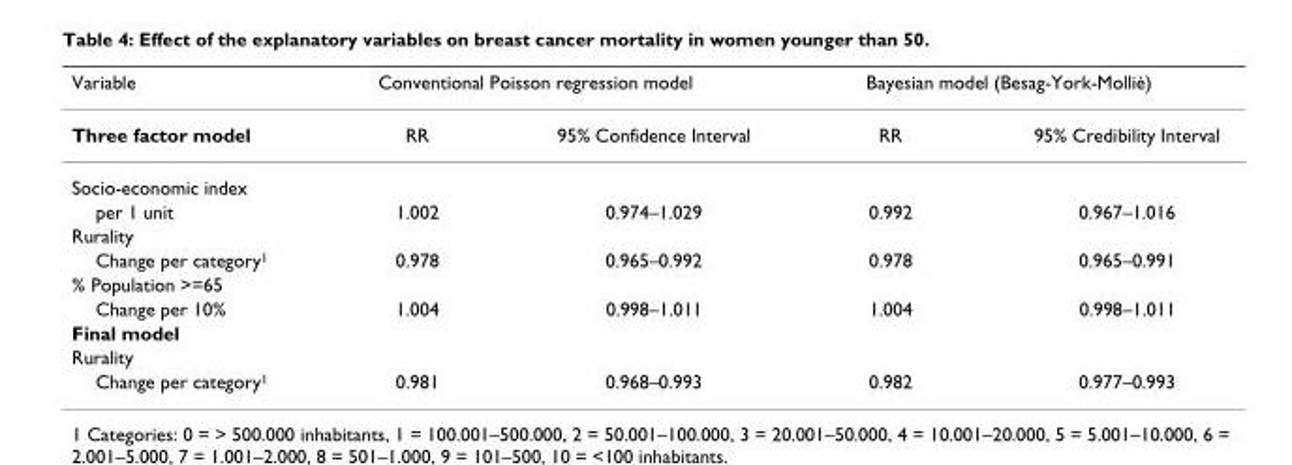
<table><thead><tr><td rowspan="2">Variable Three factor model</td><td colspan="2">Conventional Poisson regression model</td><td colspan="2">Bayesian model (Besag-York-Molliè)</td></tr><tr><td>RR</td><td>95% Confidence Interval</td><td>RR</td><td>95% Credibility Interval</td></tr></thead><tbody><tr><td colspan="5">Socio-economic index</td></tr><tr><td>per 1 unit</td><td>1.002</td><td>0.974–1.029</td><td>0.992</td><td>0.967–1.016</td></tr><tr><td colspan="5">Rurality</td></tr><tr><td>Change per category<sup>1</sup></td><td>0.978</td><td>0.965–0.992</td><td>0.978</td><td>0.965–0.991</td></tr><tr><td colspan="5">% Population &gt;=65</td></tr><tr><td>Change per 10%</td><td>1.004</td><td>0.998–1.011</td><td>1.004</td><td>0.998–1.011</td></tr><tr><td colspan="5">Final model</td></tr><tr><td colspan="5">Rurality</td></tr><tr><td>Change per category<sup>1</sup></td><td>0.981</td><td>0.968–0.993</td><td>0.982</td><td>0.977–0.993</td></tr></tbody></table>